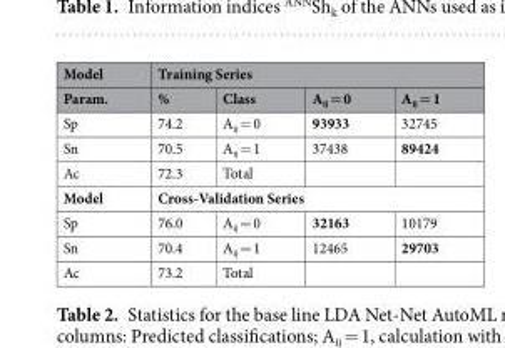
<table><thead><tr><td rowspan="2">Model Param.</td><td colspan="4">Training Series</td></tr><tr><td>%</td><td>Class</td><td>A<sub>ij</sub> = 0</td><td>A<sub>ij</sub> = 1</td></tr></thead><tbody><tr><td>Sp</td><td>74.2</td><td>A<sub>ij</sub> = 0</td><td>93933</td><td>32745</td></tr><tr><td>Sn</td><td>70.5</td><td>A<sub>ij</sub> = 1</td><td>37438</td><td>89424</td></tr><tr><td>Ac</td><td>72.3</td><td>Total</td><td></td><td></td></tr><tr><td>Model</td><td colspan="4">Cross-Validation Series</td></tr><tr><td>Sp</td><td>76.0</td><td>A<sub>ij</sub> = 0</td><td>32163</td><td>10179</td></tr><tr><td>Sn</td><td>70.4</td><td>A<sub>ij</sub> = 1</td><td>12465</td><td>29703</td></tr><tr><td>Ac</td><td>73.2</td><td>Total</td><td></td><td></td></tr></tbody></table>